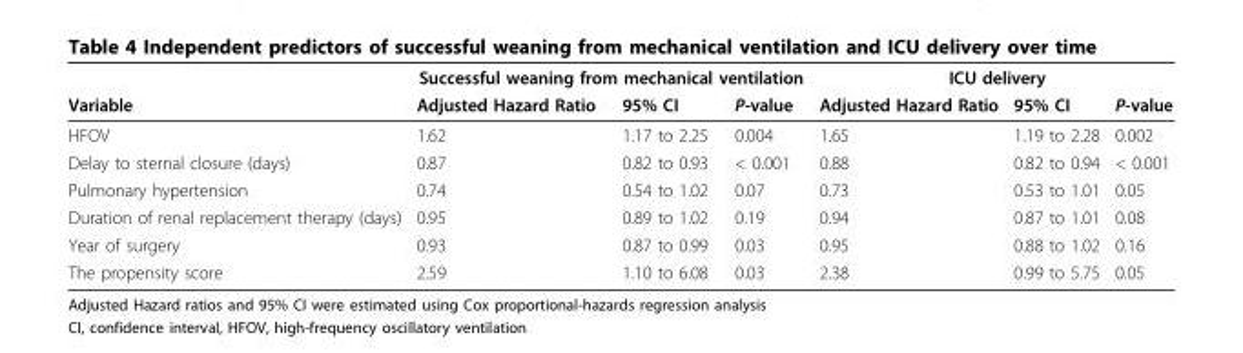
<table><thead><tr><td rowspan="2">Variable</td><td colspan="3">Successful weaning from mechanical ventilation</td><td colspan="3">ICU delivery</td></tr><tr><td>Adjusted Hazard Ratio</td><td>95% CI</td><td>P-value</td><td>Adjusted Hazard Ratio</td><td>95% CI</td><td>P-value</td></tr></thead><tbody><tr><td>HFOV</td><td>1.62</td><td>1.17 to 2.25</td><td>0.004</td><td>1.65</td><td>1.19 to 2.28</td><td>0.002</td></tr><tr><td>Delay to sternal closure (days)</td><td>0.87</td><td>0.82 to 0.93</td><td>&lt; 0.001</td><td>0.88</td><td>0.82 to 0.94</td><td>&lt; 0.001</td></tr><tr><td>Pulmonary hypertension</td><td>0.74</td><td>0.54 to 1.02</td><td>0.07</td><td>0.73</td><td>0.53 to 1.01</td><td>0.05</td></tr><tr><td>Duration of renal replacement therapy (days)</td><td>0.95</td><td>0.89 to 1.02</td><td>0.19</td><td>0.94</td><td>0.87 to 1.01</td><td>0.08</td></tr><tr><td>Year of surgery</td><td>0.93</td><td>0.87 to 0.99</td><td>0.03</td><td>0.95</td><td>0.88 to 1.02</td><td>0.16</td></tr><tr><td>The propensity score</td><td>2.59</td><td>1.10 to 6.08</td><td>0.03</td><td>2.38</td><td>0.99 to 5.75</td><td>0.05</td></tr></tbody></table>